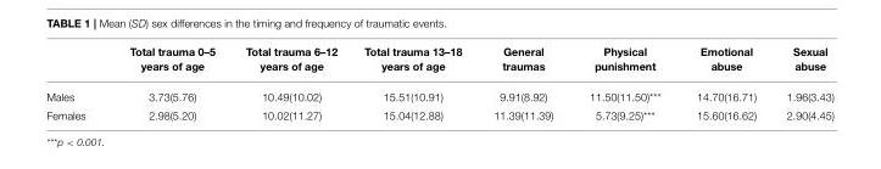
<table><thead><tr><td></td><td>Total trauma 0–5 years of age</td><td>Total trauma 6–12 years of age</td><td>Total trauma 13–18 years of age</td><td>General traumas</td><td>Physical punishment</td><td>Emotional abuse</td><td>Sexual abuse</td></tr></thead><tbody><tr><td>Males</td><td>3.73(5.76)</td><td>10.49(10.02)</td><td>15.51(10.91)</td><td>9.91(8.92)</td><td>11.50(11.50)***</td><td>14.70(16.71)</td><td>1.96(3.43)</td></tr><tr><td>Females</td><td>2.98(5.20)</td><td>10.02(11.27)</td><td>15.04(12.88)</td><td>11.39(11.39)</td><td>5.73(9.25)***</td><td>15.60(16.62)</td><td>2.90(4.45)</td></tr></tbody></table>